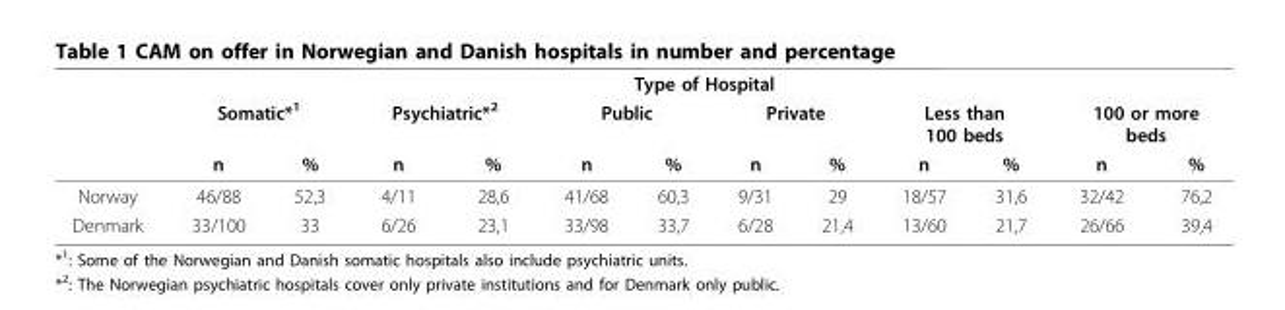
<table><thead><tr><td rowspan="3"></td><td colspan="12">Type of Hospital</td></tr><tr><td colspan="2">Somatic*<sup>1</sup></td><td colspan="2">Psychiatric*<sup>2</sup></td><td colspan="2">Public</td><td colspan="2">Private</td><td colspan="2">Less than 100 beds</td><td colspan="2">100 or more beds</td></tr><tr><td>n</td><td>%</td><td>n</td><td>%</td><td>n</td><td>%</td><td>n</td><td>%</td><td>n</td><td>%</td><td>n</td><td>%</td></tr></thead><tbody><tr><td>Norway</td><td>46/88</td><td>52,3</td><td>4/11</td><td>28,6</td><td>41/68</td><td>60,3</td><td>9/31</td><td>29</td><td>18/57</td><td>31,6</td><td>32/42</td><td>76,2</td></tr><tr><td>Denmark</td><td>33/100</td><td>33</td><td>6/26</td><td>23,1</td><td>33/98</td><td>33,7</td><td>6/28</td><td>21,4</td><td>13/60</td><td>21,7</td><td>26/66</td><td>39,4</td></tr></tbody></table>